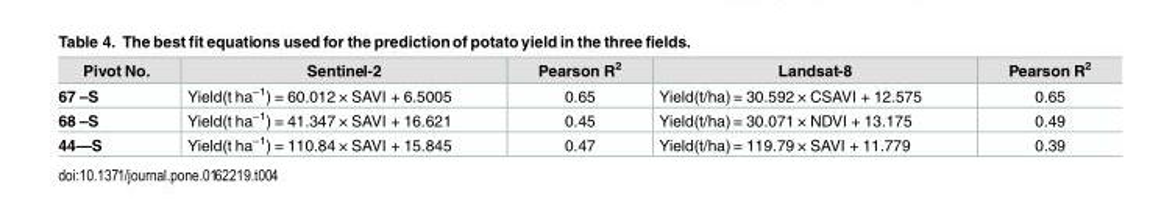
<table><thead><tr><td>Pivot No.</td><td>Sentinel-2</td><td>Pearson R<sup>2</sup></td><td>Landsat-8</td><td>Pearson R<sup>2</sup></td></tr></thead><tbody><tr><td>67 –S</td><td>Yield(t ha<sup>−1</sup>) = 60.012 × SAVI + 6.5005</td><td>0.65</td><td>Yield(t/ha) = 30.592 × CSAVI + 12.575</td><td>0.65</td></tr><tr><td>68 –S</td><td>Yield(t ha<sup>−1</sup>) = 41.347 × SAVI + 16.621</td><td>0.45</td><td>Yield(t/ha) = 30.071 × NDVI + 13.175</td><td>0.49</td></tr><tr><td>44—S</td><td>Yield(t ha<sup>−1</sup>) = 110.84 × SAVI + 15.845</td><td>0.47</td><td>Yield(t/ha) = 119.79 × SAVI + 11.779</td><td>0.39</td></tr></tbody></table>